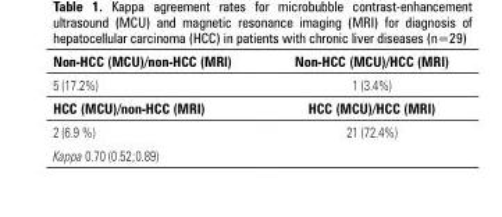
<table><thead><tr><td>Non-HCC (MCU)/non-HCC (MRI)</td><td>Non-HCC (MCU)/HCC (MRI)</td></tr></thead><tbody><tr><td>5 (17.2%)</td><td>1 (3.4%)</td></tr><tr><td>HCC (MCU)/non-HCC (MRI)</td><td>HCC (MCU)/HCC (MRI)</td></tr><tr><td>2 (6.9 %)</td><td>21 (72.4%)</td></tr><tr><td>Kappa 0.70 (0.52;0.89)</td><td></td></tr></tbody></table>